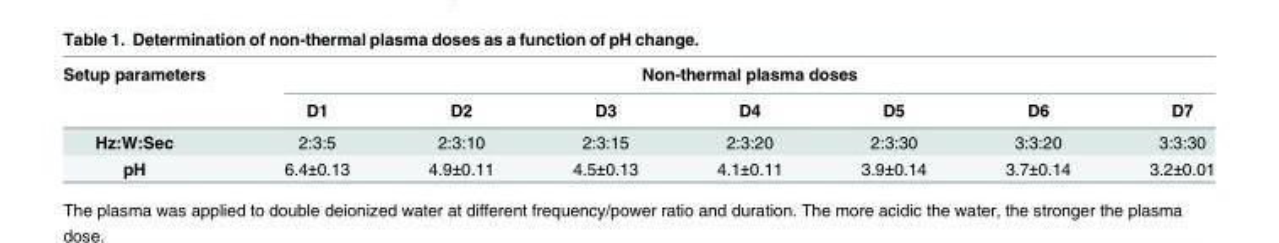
<table><thead><tr><td rowspan="2">Setup parameters</td><td colspan="7">Non-thermal plasma doses</td></tr><tr><td>D1</td><td>D2</td><td>D3</td><td>D4</td><td>D5</td><td>D6</td><td>D7</td></tr></thead><tbody><tr><td>Hz:W:Sec</td><td>2:3:5</td><td>2:3:10</td><td>2:3:15</td><td>2:3:20</td><td>2:3:30</td><td>3:3:20</td><td>3:3:30</td></tr><tr><td>pH</td><td>6.4±0.13</td><td>4.9±0.11</td><td>4.5±0.13</td><td>4.1±0.11</td><td>3.9±0.14</td><td>3.7±0.14</td><td>3.2±0.01</td></tr></tbody></table>